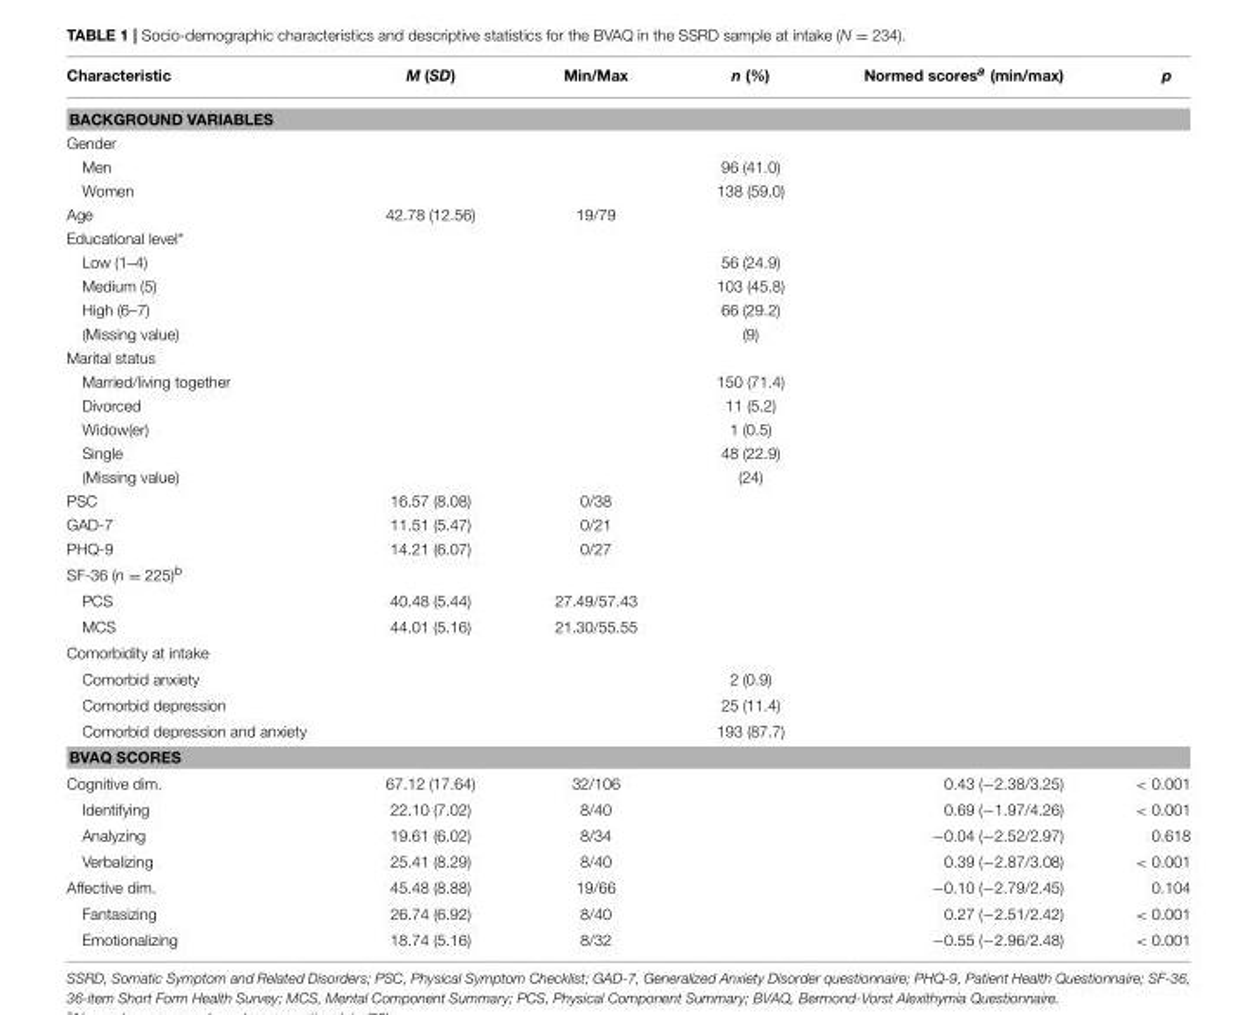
<table><thead><tr><td>Characteristic</td><td>M (SD)</td><td>Min/Max</td><td>n (%)</td><td>Normed scores<sup>a</sup> (min/max)</td><td>p</td></tr></thead><tbody><tr><td colspan="6">BACKGROUND VARIABLES</td></tr><tr><td colspan="6">Gender</td></tr><tr><td>Men</td><td></td><td></td><td>96 (41.0)</td><td></td><td></td></tr><tr><td>Women</td><td></td><td></td><td>138 (59.0)</td><td></td><td></td></tr><tr><td>Age</td><td>42.78 (12.56)</td><td>19/79</td><td></td><td></td><td></td></tr><tr><td colspan="6">Educational level*</td></tr><tr><td>Low (1–4)</td><td></td><td></td><td>56 (24.9)</td><td></td><td></td></tr><tr><td>Medium (5)</td><td></td><td></td><td>103 (45.8)</td><td></td><td></td></tr><tr><td>High (6–7)</td><td></td><td></td><td>66 (29.2)</td><td></td><td></td></tr><tr><td>(Missing value)</td><td></td><td></td><td>(9)</td><td></td><td></td></tr><tr><td colspan="6">Marital status</td></tr><tr><td>Married/living together</td><td></td><td></td><td>150 (71.4)</td><td></td><td></td></tr><tr><td>Divorced</td><td></td><td></td><td>11 (5.2)</td><td></td><td></td></tr><tr><td>Widow(er)</td><td></td><td></td><td>1 (0.5)</td><td></td><td></td></tr><tr><td>Single</td><td></td><td></td><td>48 (22.9)</td><td></td><td></td></tr><tr><td>(Missing value)</td><td></td><td></td><td>(24)</td><td></td><td></td></tr><tr><td>PSC</td><td>16.57 (8.08)</td><td>0/38</td><td></td><td></td><td></td></tr><tr><td>GAD-7</td><td>11.51 (5.47)</td><td>0/21</td><td></td><td></td><td></td></tr><tr><td>PHQ-9</td><td>14.21 (6.07)</td><td>0/27</td><td></td><td></td><td></td></tr><tr><td colspan="6">SF-36 (n = 225)<sup>b</sup></td></tr><tr><td>PCS</td><td>40.48 (5.44)</td><td>27.49/57.43</td><td></td><td></td><td></td></tr><tr><td>MCS</td><td>44.01 (5.16)</td><td>21.30/55.55</td><td></td><td></td><td></td></tr><tr><td colspan="6">Comorbidity at intake</td></tr><tr><td>Comorbid anxiety</td><td></td><td></td><td>2 (0.9)</td><td></td><td></td></tr><tr><td>Comorbid depression</td><td></td><td></td><td>25 (11.4)</td><td></td><td></td></tr><tr><td>Comorbid depression and anxiety</td><td></td><td></td><td>193 (87.7)</td><td></td><td></td></tr><tr><td colspan="6">BVAQ SCORES</td></tr><tr><td>Cognitive dim.</td><td>67.12 (17.64)</td><td>32/106</td><td></td><td>0.43 (−2.38/3.25)</td><td>&lt; 0.001</td></tr><tr><td>Identifying</td><td>22.10 (7.02)</td><td>8/40</td><td></td><td>0.69 (−1.97/4.26)</td><td>&lt; 0.001</td></tr><tr><td>Analyzing</td><td>19.61 (6.02)</td><td>8/34</td><td></td><td>−0.04 (−2.52/2.97)</td><td>0.618</td></tr><tr><td>Verbalizing</td><td>25.41 (8.29)</td><td>8/40</td><td></td><td>0.39 (−2.87/3.08)</td><td>&lt; 0.001</td></tr><tr><td>Affective dim.</td><td>45.48 (8.88)</td><td>19/66</td><td></td><td>−0.10 (−2.79/2.45)</td><td>0.104</td></tr><tr><td>Fantasizing</td><td>26.74 (6.92)</td><td>8/40</td><td></td><td>0.27 (−2.51/2.42)</td><td>&lt; 0.001</td></tr><tr><td>Emotionalizing</td><td>18.74 (5.16)</td><td>8/32</td><td></td><td>−0.55 (−2.96/2.48)</td><td>&lt; 0.001</td></tr></tbody></table>